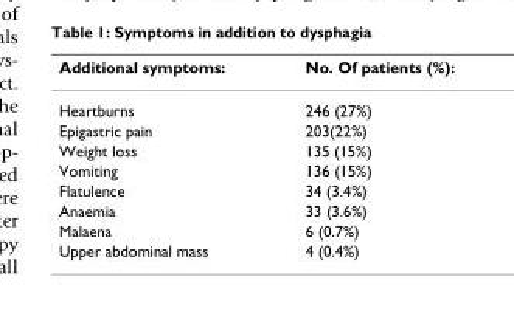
<table><thead><tr><td>Additional symptoms:</td><td>No. Of patients (%):</td></tr></thead><tbody><tr><td>Heartburns</td><td>246 (27%)</td></tr><tr><td>Epigastric pain</td><td>203(22%)</td></tr><tr><td>Weight loss</td><td>135 (15%)</td></tr><tr><td>Vomiting</td><td>136 (15%)</td></tr><tr><td>Flatulence</td><td>34 (3.4%)</td></tr><tr><td>Anaemia</td><td>33 (3.6%)</td></tr><tr><td>Malaena</td><td>6 (0.7%)</td></tr><tr><td>Upper abdominal mass</td><td>4 (0.4%)</td></tr></tbody></table>